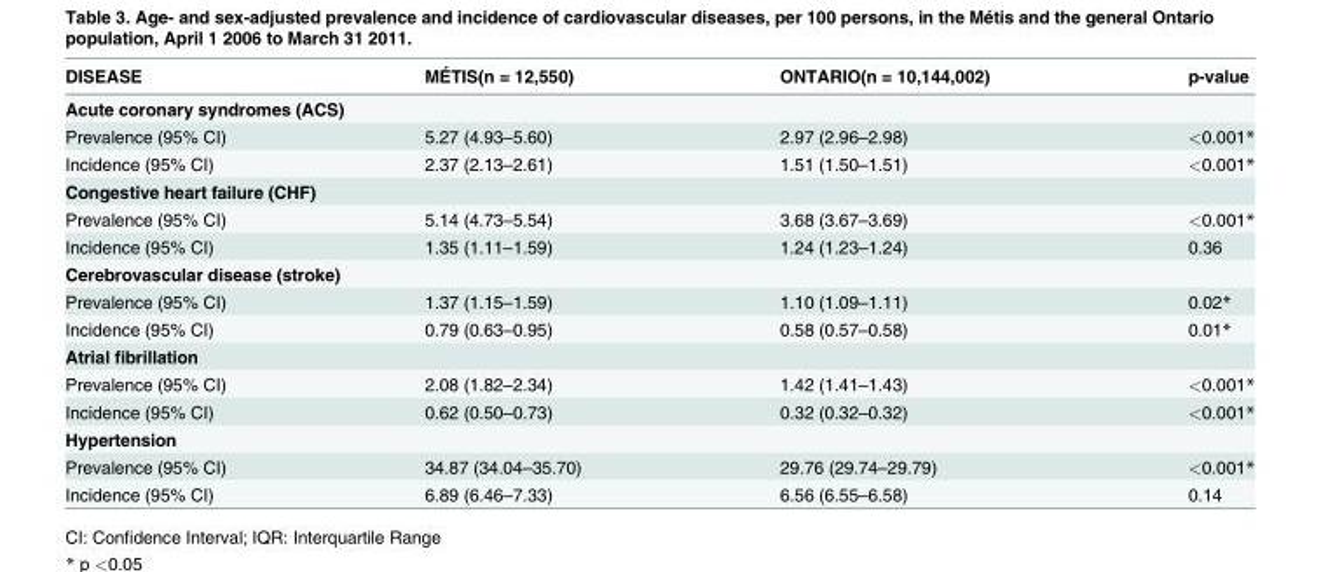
<table><thead><tr><td>DISEASE</td><td>MÉTIS(n = 12,550)</td><td>ONTARIO(n = 10,144,002)</td><td>p-value</td></tr></thead><tbody><tr><td colspan="4">Acute coronary syndromes (ACS)</td></tr><tr><td>Prevalence (95% CI)</td><td>5.27 (4.93–5.60)</td><td>2.97 (2.96–2.98)</td><td>&lt;0.001*</td></tr><tr><td>Incidence (95% CI)</td><td>2.37 (2.13–2.61)</td><td>1.51 (1.50–1.51)</td><td>&lt;0.001*</td></tr><tr><td colspan="4">Congestive heart failure (CHF)</td></tr><tr><td>Prevalence (95% CI)</td><td>5.14 (4.73–5.54)</td><td>3.68 (3.67–3.69)</td><td>&lt;0.001*</td></tr><tr><td>Incidence (95% CI)</td><td>1.35 (1.11–1.59)</td><td>1.24 (1.23–1.24)</td><td>0.36</td></tr><tr><td colspan="4">Cerebrovascular disease (stroke)</td></tr><tr><td>Prevalence (95% CI)</td><td>1.37 (1.15–1.59)</td><td>1.10 (1.09–1.11)</td><td>0.02*</td></tr><tr><td>Incidence (95% CI)</td><td>0.79 (0.63–0.95)</td><td>0.58 (0.57–0.58)</td><td>0.01*</td></tr><tr><td colspan="4">Atrial fibrillation</td></tr><tr><td>Prevalence (95% CI)</td><td>2.08 (1.82–2.34)</td><td>1.42 (1.41–1.43)</td><td>&lt;0.001*</td></tr><tr><td>Incidence (95% CI)</td><td>0.62 (0.50–0.73)</td><td>0.32 (0.32–0.32)</td><td>&lt;0.001*</td></tr><tr><td colspan="4">Hypertension</td></tr><tr><td>Prevalence (95% CI)</td><td>34.87 (34.04–35.70)</td><td>29.76 (29.74–29.79)</td><td>&lt;0.001*</td></tr><tr><td>Incidence (95% CI)</td><td>6.89 (6.46–7.33)</td><td>6.56 (6.55–6.58)</td><td>0.14</td></tr></tbody></table>